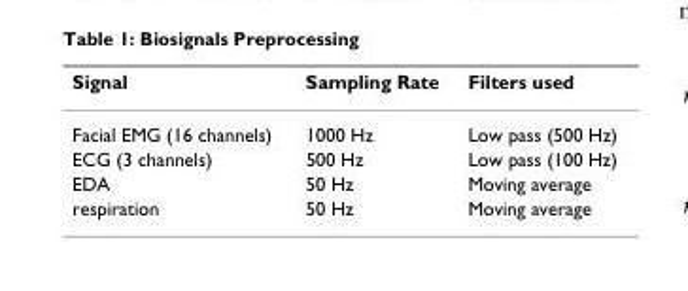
<table><thead><tr><td>Signal</td><td>Sampling Rate</td><td>Filters used</td></tr></thead><tbody><tr><td>Facial EMG (16 channels)</td><td>1000 Hz</td><td>Low pass (500 Hz)</td></tr><tr><td>ECG (3 channels)</td><td>500 Hz</td><td>Low pass (100 Hz)</td></tr><tr><td>EDA</td><td>50 Hz</td><td>Moving average</td></tr><tr><td>respiration</td><td>50 Hz</td><td>Moving average</td></tr></tbody></table>